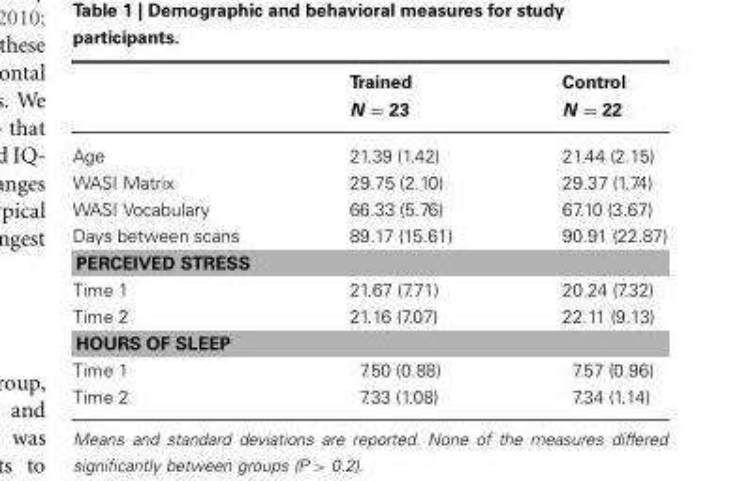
<table><thead><tr><td></td><td>Trained N = 23</td><td>Control N = 22</td></tr></thead><tbody><tr><td>Age</td><td>21.39 (1.42)</td><td>21.44 (2.15)</td></tr><tr><td>WASI Matrix</td><td>29.75 (2.10)</td><td>29.37 (1.74)</td></tr><tr><td>WASI Vocabulary</td><td>66.33 (5.76)</td><td>67.10 (3.67)</td></tr><tr><td>Days between scans</td><td>89.17 (15.61)</td><td>90.91 (22.87)</td></tr><tr><td colspan="3">PERCEIVED STRESS</td></tr><tr><td>Time 1</td><td>21.67 (7.71)</td><td>20.24 (7.32)</td></tr><tr><td>Time 2</td><td>21.16 (7.07)</td><td>22.11 (9.13)</td></tr><tr><td colspan="3">HOURS OF SLEEP</td></tr><tr><td>Time 1</td><td>7.50 (0.88)</td><td>7.57 (0.96)</td></tr><tr><td>Time 2</td><td>7.33 (1.08)</td><td>7.34 (1.14)</td></tr></tbody></table>